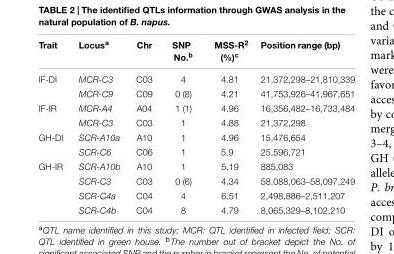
<table><thead><tr><td>Trait</td><td>Locus<sup>a</sup></td><td>Chr</td><td>SNP No.<sup>b</sup></td><td>MSS-R<sup>2</sup> (%)<sup>c</sup></td><td>Position range (bp)</td></tr></thead><tbody><tr><td rowspan="2">IF-DI</td><td>MCR-C3</td><td>C03</td><td>4</td><td>4.81</td><td>21,372,298–21,810,339</td></tr><tr><td>MCR-C9</td><td>C09</td><td>0 (8)</td><td>4.21</td><td>41,753,926–41,967,651</td></tr><tr><td rowspan="2">IF-IR</td><td>MCR-A4</td><td>A04</td><td>1 (1)</td><td>4.96</td><td>16,356,482–16,733,484</td></tr><tr><td>MCR-C3</td><td>C03</td><td>1</td><td>4.88</td><td>21,372,298</td></tr><tr><td rowspan="2">GH-DI</td><td>SCR-A10a</td><td>A10</td><td>1</td><td>4.96</td><td>15,476,654</td></tr><tr><td>SCR-C6</td><td>C06</td><td>1</td><td>5.9</td><td>25,596,721</td></tr><tr><td rowspan="4">GH-IR</td><td>SCR-A10b</td><td>A10</td><td>1</td><td>5.19</td><td>885,083</td></tr><tr><td>SCR-C3</td><td>C03</td><td>0 (6)</td><td>4.34</td><td>58,088,063–58,097,249</td></tr><tr><td>SCR-C4a</td><td>C04</td><td>4</td><td>6.51</td><td>2,498,886–2,511,207</td></tr><tr><td>SCR-C4b</td><td>C04</td><td>8</td><td>4.79</td><td>8,065,329–8,102,210</td></tr></tbody></table>